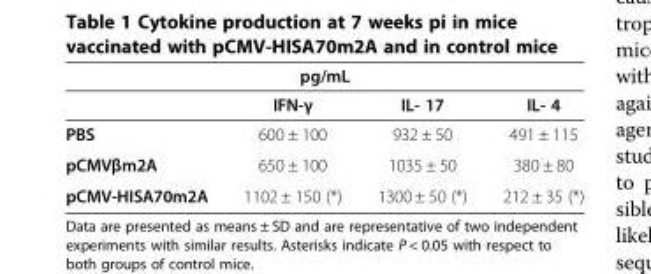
<table><thead><tr><td colspan="4">pg/mL</td></tr><tr><td></td><td>IFN-γ</td><td>IL- 17</td><td>IL- 4</td></tr></thead><tbody><tr><td>PBS</td><td>600 ± 100</td><td>932 ± 50</td><td>491 ± 115</td></tr><tr><td>pCMVβm2A</td><td>650 ± 100</td><td>1035 ± 50</td><td>380 ± 80</td></tr><tr><td>pCMV-HISA70m2A</td><td>1102 ± 150 (*)</td><td>1300 ± 50 (*)</td><td>212 ± 35 (*)</td></tr></tbody></table>